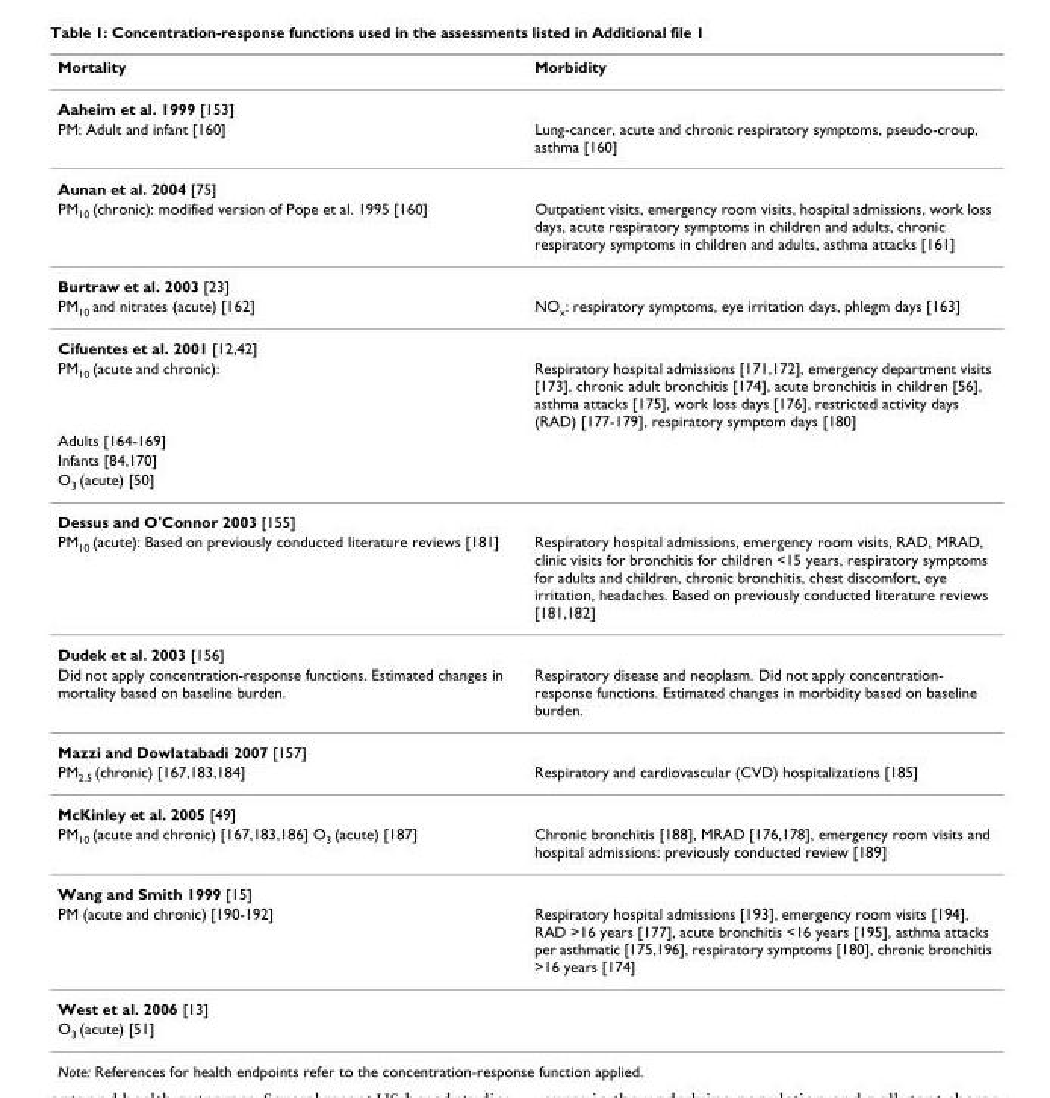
<table><thead><tr><td>Mortality</td><td>Morbidity</td></tr></thead><tbody><tr><td colspan="2">Aaheim et al. 1999 [153]</td></tr><tr><td>PM: Adult and infant [160]</td><td>Lung-cancer, acute and chronic respiratory symptoms, pseudo-croup, asthma [160]</td></tr><tr><td colspan="2">Aunan et al. 2004 [75]</td></tr><tr><td>PM<sub>10</sub> (chronic): modified version of Pope et al. 1995 [160]</td><td>Outpatient visits, emergency room visits, hospital admissions, work loss days, acute respiratory symptoms in children and adults, chronic respiratory symptoms in children and adults, asthma attacks [161]</td></tr><tr><td colspan="2">Burtraw et al. 2003 [23]</td></tr><tr><td>PM<sub>10</sub> and nitrates (acute) [162]</td><td>NO<sub>x</sub>: respiratory symptoms, eye irritation days, phlegm days [163]</td></tr><tr><td colspan="2">Cifuentes et al. 2001 [12,42]</td></tr><tr><td>PM<sub>10</sub> (acute and chronic):</td><td>Respiratory hospital admissions [171,172], emergency department visits [173], chronic adult bronchitis [174], acute bronchitis in children [56], asthma attacks [175], work loss days [176], restricted activity days (RAD) [177-179], respiratory symptom days [180]</td></tr><tr><td colspan="2">Adults [164-169]</td></tr><tr><td colspan="2">Infants [84,170]</td></tr><tr><td colspan="2">O<sub>3</sub> (acute) [50]</td></tr><tr><td colspan="2">Dessus and O&#x27;Connor 2003 [155]</td></tr><tr><td>PM<sub>10</sub> (acute): Based on previously conducted literature reviews [181]</td><td>Respiratory hospital admissions, emergency room visits, RAD, MRAD, clinic visits for bronchitis for children &lt;15 years, respiratory symptoms for adults and children, chronic bronchitis, chest discomfort, eye irritation, headaches. Based on previously conducted literature reviews [181,182]</td></tr><tr><td colspan="2">Dudek et al. 2003 [156]</td></tr><tr><td>Did not apply concentration-response functions. Estimated changes in mortality based on baseline burden.</td><td>Respiratory disease and neoplasm. Did not apply concentration- response functions. Estimated changes in morbidity based on baseline burden.</td></tr><tr><td colspan="2">Mazzi and Dowlatabadi 2007 [157]</td></tr><tr><td>PM<sub>2.5</sub> (chronic) [167,183,184]</td><td>Respiratory and cardiovascular (CVD) hospitalizations [185]</td></tr><tr><td colspan="2">McKinley et al. 2005 [49]</td></tr><tr><td>PM<sub>10</sub> (acute and chronic) [167,183,186] O<sub>3</sub> (acute) [187]</td><td>Chronic bronchitis [188], MRAD [176,178], emergency room visits and hospital admissions: previously conducted review [189]</td></tr><tr><td colspan="2">Wang and Smith 1999 [15]</td></tr><tr><td>PM (acute and chronic) [190-192]</td><td>Respiratory hospital admissions [193], emergency room visits [194], RAD &gt;16 years [177], acute bronchitis &lt;16 years [195], asthma attacks per asthmatic [175,196], respiratory symptoms [180], chronic bronchitis &gt;16 years [174]</td></tr><tr><td colspan="2">West et al. 2006 [13]</td></tr><tr><td>O<sub>3</sub> (acute) [51]</td><td></td></tr></tbody></table>